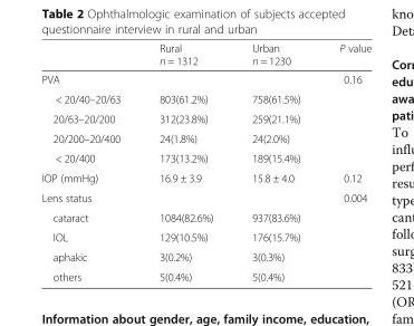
<table><thead><tr><td></td><td>Rural n = 1312</td><td>Urban n = 1230</td><td>P value</td></tr></thead><tbody><tr><td>PVA</td><td></td><td></td><td>0.16</td></tr><tr><td>&lt; 20/40–20/63</td><td>803(61.2%)</td><td>758(61.5%)</td><td></td></tr><tr><td>20/63–20/200</td><td>312(23.8%)</td><td>259(21.1%)</td><td></td></tr><tr><td>20/200–20/400</td><td>24(1.8%)</td><td>24(2.0%)</td><td></td></tr><tr><td>&lt; 20/400</td><td>173(13.2%)</td><td>189(15.4%)</td><td></td></tr><tr><td>IOP (mmHg)</td><td>16.9 ± 3.9</td><td>15.8 ± 4.0</td><td>0.12</td></tr><tr><td>Lens status</td><td></td><td></td><td>0.004</td></tr><tr><td>cataract</td><td>1084(82.6%)</td><td>937(83.6%)</td><td></td></tr><tr><td>IOL</td><td>129(10.5%)</td><td>176(15.7%)</td><td></td></tr><tr><td>aphakic</td><td>3(0.2%)</td><td>3(0.3%)</td><td></td></tr><tr><td>others</td><td>5(0.4%)</td><td>5(0.4%)</td><td></td></tr></tbody></table>